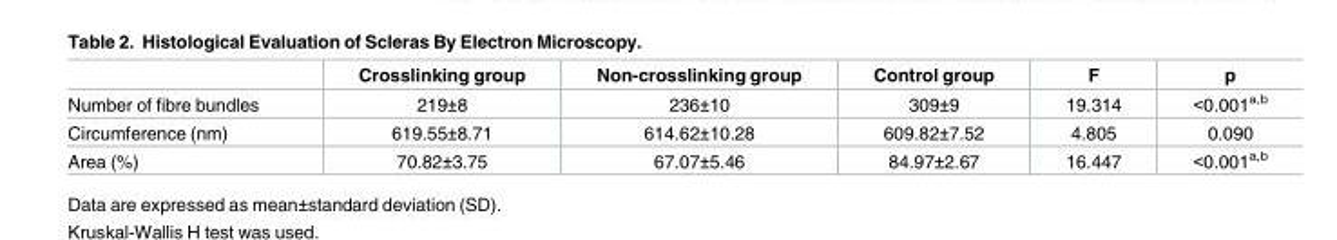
<table><thead><tr><td></td><td>Crosslinking group</td><td>Non-crosslinking group</td><td>Control group</td><td>F</td><td>p</td></tr></thead><tbody><tr><td>Number of fibre bundles</td><td>219±8</td><td>236±10</td><td>309±9</td><td>19.314</td><td>&lt;0.001<sup>a,b</sup></td></tr><tr><td>Circumference (nm)</td><td>619.55±8.71</td><td>614.62±10.28</td><td>609.82±7.52</td><td>4.805</td><td>0.090</td></tr><tr><td>Area (%)</td><td>70.82±3.75</td><td>67.07±5.46</td><td>84.97±2.67</td><td>16.447</td><td>&lt;0.001<sup>a,b</sup></td></tr></tbody></table>